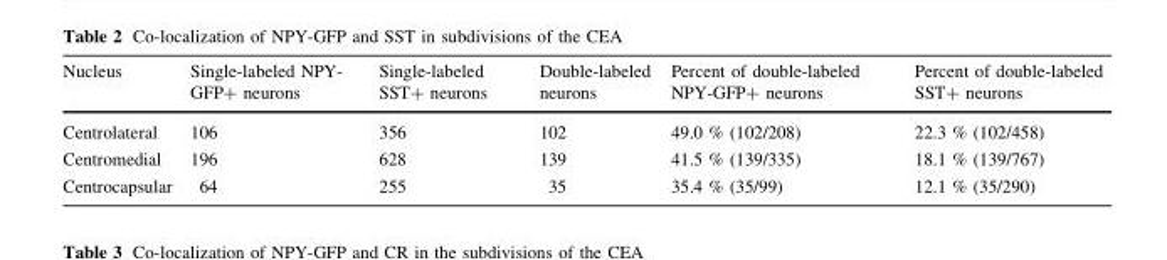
<table><thead><tr><td>Nucleus</td><td>Single-labeled NPY- GFP+ neurons</td><td>Single-labeled SST+ neurons</td><td>Double-labeled neurons</td><td>Percent of double-labeled NPY-GFP+ neurons</td><td>Percent of double-labeled SST+ neurons</td></tr></thead><tbody><tr><td>Centrolateral</td><td>106</td><td>356</td><td>102</td><td>49.0 % (102/208)</td><td>22.3 % (102/458)</td></tr><tr><td>Centromedial</td><td>196</td><td>628</td><td>139</td><td>41.5 % (139/335)</td><td>18.1 % (139/767)</td></tr><tr><td>Centrocapsular</td><td>64</td><td>255</td><td>35</td><td>35.4 % (35/99)</td><td>12.1 % (35/290)</td></tr></tbody></table>